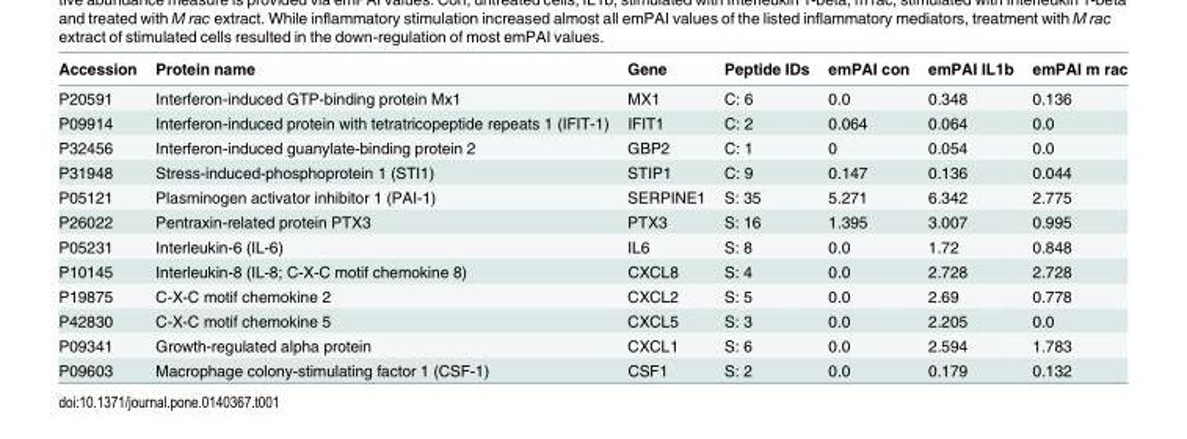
<table><thead><tr><td>Accession</td><td>Protein name</td><td>Gene</td><td>Peptide IDs</td><td>emPAI con</td><td>emPAI IL1b</td><td>emPAI m rac</td></tr></thead><tbody><tr><td>P20591</td><td>Interferon-induced GTP-binding protein Mx1</td><td>MX1</td><td>C: 6</td><td>0.0</td><td>0.348</td><td>0.136</td></tr><tr><td>P09914</td><td>Interferon-induced protein with tetratricopeptide repeats 1 (IFIT-1)</td><td>IFIT1</td><td>C: 2</td><td>0.064</td><td>0.064</td><td>0.0</td></tr><tr><td>P32456</td><td>Interferon-induced guanylate-binding protein 2</td><td>GBP2</td><td>C: 1</td><td>0</td><td>0.054</td><td>0.0</td></tr><tr><td>P31948</td><td>Stress-induced-phosphoprotein 1 (STI1)</td><td>STIP1</td><td>C: 9</td><td>0.147</td><td>0.136</td><td>0.044</td></tr><tr><td>P05121</td><td>Plasminogen activator inhibitor 1 (PAI-1)</td><td>SERPINE1</td><td>S: 35</td><td>5.271</td><td>6.342</td><td>2.775</td></tr><tr><td>P26022</td><td>Pentraxin-related protein PTX3</td><td>PTX3</td><td>S: 16</td><td>1.395</td><td>3.007</td><td>0.995</td></tr><tr><td>P05231</td><td>Interleukin-6 (IL-6)</td><td>IL6</td><td>S: 8</td><td>0.0</td><td>1.72</td><td>0.848</td></tr><tr><td>P10145</td><td>Interleukin-8 (IL-8; C-X-C motif chemokine 8)</td><td>CXCL8</td><td>S: 4</td><td>0.0</td><td>2.728</td><td>2.728</td></tr><tr><td>P19875</td><td>C-X-C motif chemokine 2</td><td>CXCL2</td><td>S: 5</td><td>0.0</td><td>2.69</td><td>0.778</td></tr><tr><td>P42830</td><td>C-X-C motif chemokine 5</td><td>CXCL5</td><td>S: 3</td><td>0.0</td><td>2.205</td><td>0.0</td></tr><tr><td>P09341</td><td>Growth-regulated alpha protein</td><td>CXCL1</td><td>S: 6</td><td>0.0</td><td>2.594</td><td>1.783</td></tr><tr><td>P09603</td><td>Macrophage colony-stimulating factor 1 (CSF-1)</td><td>CSF1</td><td>S: 2</td><td>0.0</td><td>0.179</td><td>0.132</td></tr></tbody></table>